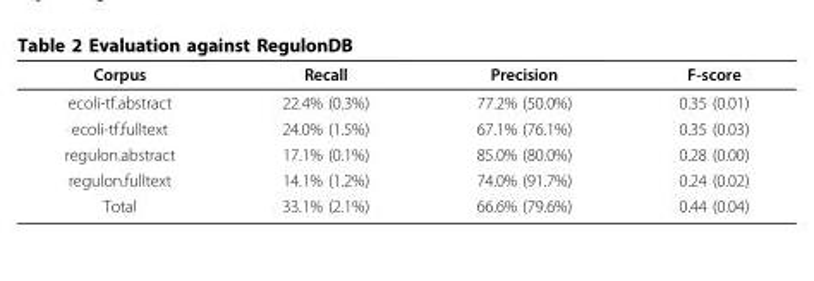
<table><thead><tr><td>Corpus</td><td>Recall</td><td>Precision</td><td>F-score</td></tr></thead><tbody><tr><td>ecoli-tf.abstract</td><td>22.4% (0.3%)</td><td>77.2% (50.0%)</td><td>0.35 (0.01)</td></tr><tr><td>ecoli-tf.fulltext</td><td>24.0% (1.5%)</td><td>67.1% (76.1%)</td><td>0.35 (0.03)</td></tr><tr><td>regulon.abstract</td><td>17.1% (0.1%)</td><td>85.0% (80.0%)</td><td>0.28 (0.00)</td></tr><tr><td>regulon.fulltext</td><td>14.1% (1.2%)</td><td>74.0% (91.7%)</td><td>0.24 (0.02)</td></tr><tr><td>Total</td><td>33.1% (2.1%)</td><td>66.6% (79.6%)</td><td>0.44 (0.04)</td></tr></tbody></table>